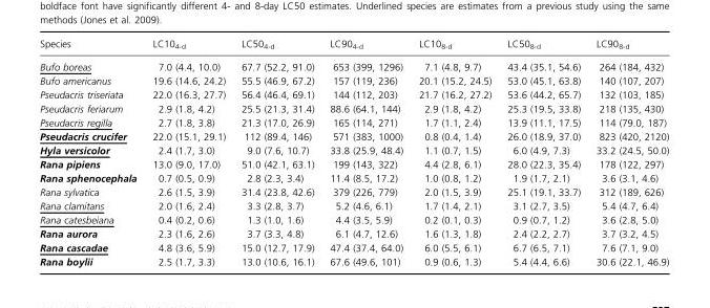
<table><thead><tr><td>Species</td><td>LC10<sub>4-d</sub></td><td>LC50<sub>4-d</sub></td><td>LC90<sub>4-d</sub></td><td>LC10<sub>8-d</sub></td><td>LC50<sub>8-d</sub></td><td>LC90<sub>8-d</sub></td></tr></thead><tbody><tr><td>Bufo boreas</td><td>7.0 (4.4, 10.0)</td><td>67.7 (52.2, 91.0)</td><td>653 (399, 1296)</td><td>7.1 (4.8, 9.7)</td><td>43.4 (35.1, 54.6)</td><td>264 (184, 432)</td></tr><tr><td>Bufo americanus</td><td>19.6 (14.6, 24.2)</td><td>55.5 (46.9, 67.2)</td><td>157 (119, 236)</td><td>20.1 (15.2, 24.5)</td><td>53.0 (45.1, 63.8)</td><td>140 (107, 207)</td></tr><tr><td>Pseudacris triseriata</td><td>22.0 (16.3, 27.7)</td><td>56.4 (46.4, 69.1)</td><td>144 (112, 203)</td><td>21.7 (16.2, 27.2)</td><td>53.6 (44.2, 65.7)</td><td>132 (103, 185)</td></tr><tr><td>Pseudacris feriarum</td><td>2.9 (1.8, 4.2)</td><td>25.5 (21.3, 31.4)</td><td>88.6 (64.1, 144)</td><td>2.9 (1.8, 4.2)</td><td>25.3 (19.5, 33.8)</td><td>218 (135, 430)</td></tr><tr><td>Pseudacris regilla</td><td>2.7 (1.8, 3.8)</td><td>21.3 (17.0, 26.9)</td><td>165 (114, 271)</td><td>1.7 (1.1, 2.4)</td><td>13.9 (11.1, 17.5)</td><td>114 (79.0, 187)</td></tr><tr><td>Pseudacris crucifer</td><td>22.0 (15.1, 29.1)</td><td>112 (89.4, 146)</td><td>571 (383, 1000)</td><td>0.8 (0.4, 1.4)</td><td>26.0 (18.9, 37.0)</td><td>823 (420, 2120)</td></tr><tr><td>Hyla versicolor</td><td>2.4 (1.7, 3.0)</td><td>9.0 (7.6, 10.7)</td><td>33.8 (25.9, 48.4)</td><td>1.1 (0.7, 1.5)</td><td>6.0 (4.9, 7.3)</td><td>33.2 (24.5, 50.0)</td></tr><tr><td>Rana pipiens</td><td>13.0 (9.0, 17.0)</td><td>51.0 (42.1, 63.1)</td><td>199 (143, 322)</td><td>4.4 (2.8, 6.1)</td><td>28.0 (22.3, 35.4)</td><td>178 (122, 297)</td></tr><tr><td>Rana sphenocephala</td><td>0.7 (0.5, 0.9)</td><td>2.8 (2.3, 3.4)</td><td>11.4 (8.5, 17.2)</td><td>1.0 (0.8, 1.2)</td><td>1.9 (1.7, 2.1)</td><td>3.6 (3.1, 4.6)</td></tr><tr><td>Rana sylvatica</td><td>2.6 (1.5, 3.9)</td><td>31.4 (23.8, 42.6)</td><td>379 (226, 779)</td><td>2.0 (1.5, 3.9)</td><td>25.1 (19.1, 33.7)</td><td>312 (189, 626)</td></tr><tr><td>Rana clamitans</td><td>2.0 (1.6, 2.4)</td><td>3.3 (2.8, 3.7)</td><td>5.2 (4.6, 6.1)</td><td>1.7 (1.4, 2.1)</td><td>3.1 (2.7, 3.5)</td><td>5.4 (4.7, 6.4)</td></tr><tr><td>Rana catesbeiana</td><td>0.4 (0.2, 0.6)</td><td>1.3 (1.0, 1.6)</td><td>4.4 (3.5, 5.9)</td><td>0.2 (0.1, 0.3)</td><td>0.9 (0.7, 1.2)</td><td>3.6 (2.8, 5.0)</td></tr><tr><td>Rana aurora</td><td>2.3 (1.6, 2.6)</td><td>3.7 (3.3, 4.8)</td><td>6.1 (4.7, 12.6)</td><td>1.6 (1.3, 1.8)</td><td>2.4 (2.2, 2.7)</td><td>3.7 (3.2, 4.5)</td></tr><tr><td>Rana cascadae</td><td>4.8 (3.6, 5.9)</td><td>15.0 (12.7, 17.9)</td><td>47.4 (37.4, 64.0)</td><td>6.0 (5.5, 6.1)</td><td>6.7 (6.5, 7.1)</td><td>7.6 (7.1, 9.0)</td></tr><tr><td>Rana boylii</td><td>2.5 (1.7, 3.3)</td><td>13.0 (10.6, 16.1)</td><td>67.6 (49.6, 101)</td><td>0.9 (0.6, 1.3)</td><td>5.4 (4.4, 6.6)</td><td>30.6 (22.1, 46.9)</td></tr></tbody></table>